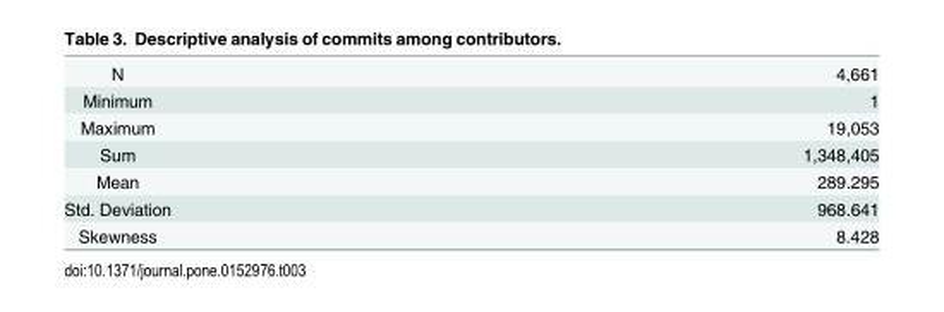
<table><tbody><tr><td>N</td><td>4,661</td></tr><tr><td>Minimum</td><td>1</td></tr><tr><td>Maximum</td><td>19,053</td></tr><tr><td>Sum</td><td>1,348,405</td></tr><tr><td>Mean</td><td>289.295</td></tr><tr><td>Std. Deviation</td><td>968.641</td></tr><tr><td>Skewness</td><td>8.428</td></tr></tbody></table>